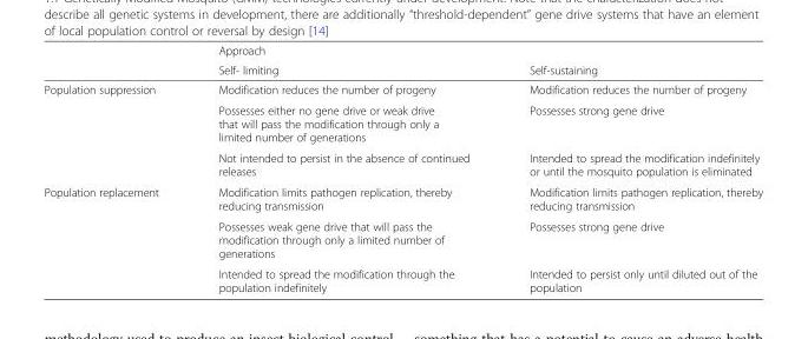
<table><thead><tr><td rowspan="2"></td><td rowspan="2">Approach Self- limiting</td><td rowspan="2">Self-sustaining</td></tr><tr></tr></thead><tbody><tr><td rowspan="3">Population suppression</td><td>Modification reduces the number of progeny</td><td>Modification reduces the number of progeny</td></tr><tr><td>Possesses either no gene drive or weak drive that will pass the modification through only a limited number of generations</td><td>Possesses strong gene drive</td></tr><tr><td>Not intended to persist in the absence of continued releases</td><td>Intended to spread the modification indefinitely or until the mosquito population is eliminated</td></tr><tr><td rowspan="3">Population replacement</td><td>Modification limits pathogen replication, thereby reducing transmission</td><td>Modification limits pathogen replication, thereby reducing transmission</td></tr><tr><td>Possesses weak gene drive that will pass the modification through only a limited number of generations</td><td>Possesses strong gene drive</td></tr><tr><td>Intended to spread the modification through the population indefinitely</td><td>Intended to persist only until diluted out of the population</td></tr></tbody></table>